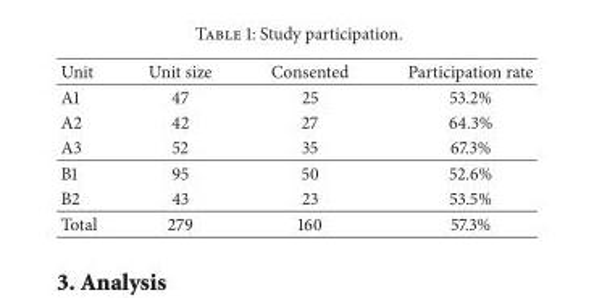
<table><thead><tr><td>Unit</td><td>Unit size</td><td>Consented</td><td>Participation rate</td></tr></thead><tbody><tr><td>A1</td><td>47</td><td>25</td><td>53.2%</td></tr><tr><td>A2</td><td>42</td><td>27</td><td>64.3%</td></tr><tr><td>A3</td><td>52</td><td>35</td><td>67.3%</td></tr><tr><td>B1</td><td>95</td><td>50</td><td>52.6%</td></tr><tr><td>B2</td><td>43</td><td>23</td><td>53.5%</td></tr><tr><td>Total</td><td>279</td><td>160</td><td>57.3%</td></tr></tbody></table>